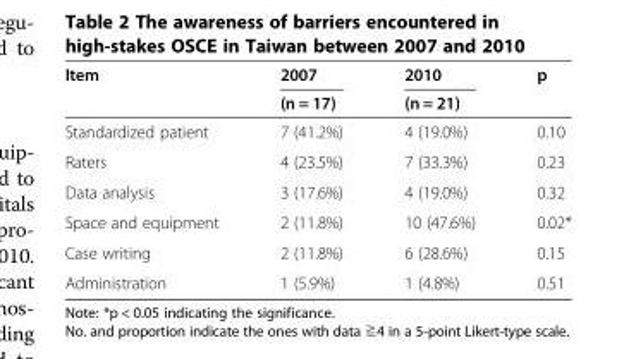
<table><thead><tr><td rowspan="2">Item</td><td rowspan="2">2007 (n = 17)</td><td rowspan="2">2010 (n = 21)</td><td rowspan="2">p</td></tr><tr></tr></thead><tbody><tr><td>Standardized patient</td><td>7 (41.2%)</td><td>4 (19.0%)</td><td>0.10</td></tr><tr><td>Raters</td><td>4 (23.5%)</td><td>7 (33.3%)</td><td>0.23</td></tr><tr><td>Data analysis</td><td>3 (17.6%)</td><td>4 (19.0%)</td><td>0.32</td></tr><tr><td>Space and equipment</td><td>2 (11.8%)</td><td>10 (47.6%)</td><td>0.02*</td></tr><tr><td>Case writing</td><td>2 (11.8%)</td><td>6 (28.6%)</td><td>0.15</td></tr><tr><td>Administration</td><td>1 (5.9%)</td><td>1 (4.8%)</td><td>0.51</td></tr></tbody></table>